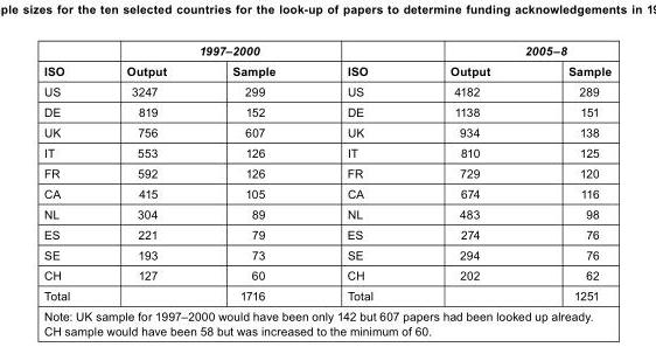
<table><thead><tr><td rowspan="2">ISO</td><td colspan="2">1997–2000</td><td rowspan="2">ISO</td><td colspan="2">2005–8</td></tr><tr><td>Output</td><td>Sample</td><td>Output</td><td>Sample</td></tr></thead><tbody><tr><td>US</td><td>3247</td><td>299</td><td>US</td><td>4182</td><td>289</td></tr><tr><td>DE</td><td>819</td><td>152</td><td>DE</td><td>1138</td><td>151</td></tr><tr><td>UK</td><td>756</td><td>607</td><td>UK</td><td>934</td><td>138</td></tr><tr><td>IT</td><td>553</td><td>126</td><td>IT</td><td>810</td><td>125</td></tr><tr><td>FR</td><td>592</td><td>126</td><td>FR</td><td>729</td><td>120</td></tr><tr><td>CA</td><td>415</td><td>105</td><td>CA</td><td>674</td><td>116</td></tr><tr><td>NL</td><td>304</td><td>89</td><td>NL</td><td>483</td><td>98</td></tr><tr><td>ES</td><td>221</td><td>79</td><td>ES</td><td>274</td><td>76</td></tr><tr><td>SE</td><td>193</td><td>73</td><td>SE</td><td>294</td><td>76</td></tr><tr><td>CH</td><td>127</td><td>60</td><td>CH</td><td>202</td><td>62</td></tr><tr><td>Total</td><td></td><td>1716</td><td>Total</td><td></td><td>1251</td></tr></tbody></table>